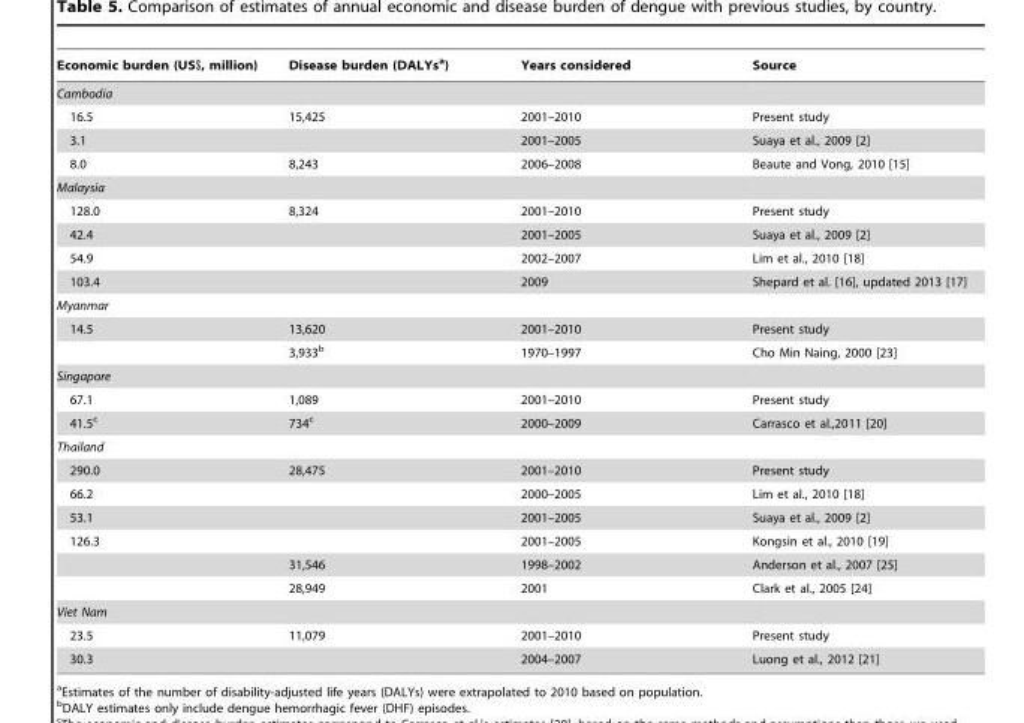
<table><thead><tr><td>Economic burden (US$, million)</td><td>Disease burden (DALYs<sup>a</sup>)</td><td>Years considered</td><td>Source</td></tr></thead><tbody><tr><td colspan="4">Cambodia</td></tr><tr><td>16.5</td><td>15,425</td><td>2001–2010</td><td>Present study</td></tr><tr><td>3.1</td><td></td><td>2001–2005</td><td>Suaya et al., 2009 [2]</td></tr><tr><td>8.0</td><td>8,243</td><td>2006–2008</td><td>Beaute and Vong, 2010 [15]</td></tr><tr><td colspan="4">Malaysia</td></tr><tr><td>128.0</td><td>8,324</td><td>2001–2010</td><td>Present study</td></tr><tr><td>42.4</td><td></td><td>2001–2005</td><td>Suaya et al., 2009 [2]</td></tr><tr><td>54.9</td><td></td><td>2002–2007</td><td>Lim et al., 2010 [18]</td></tr><tr><td>103.4</td><td></td><td>2009</td><td>Shepard et al. [16], updated 2013 [17]</td></tr><tr><td colspan="4">Myanmar</td></tr><tr><td rowspan="2">14.5</td><td>13,620</td><td>2001–2010</td><td>Present study</td></tr><tr><td>3,933<sup>b</sup></td><td>1970–1997</td><td>Cho Min Naing, 2000 [23]</td></tr><tr><td colspan="4">Singapore</td></tr><tr><td>67.1</td><td>1,089</td><td>2001–2010</td><td>Present study</td></tr><tr><td>41.5<sup>c</sup></td><td>734<sup>c</sup></td><td>2000–2009</td><td>Carrasco et al.,2011 [20]</td></tr><tr><td colspan="4">Thailand</td></tr><tr><td>290.0</td><td>28,475</td><td>2001–2010</td><td>Present study</td></tr><tr><td>66.2</td><td></td><td>2000–2005</td><td>Lim et al., 2010 [18]</td></tr><tr><td>53.1</td><td></td><td>2001–2005</td><td>Suaya et al., 2009 [2]</td></tr><tr><td rowspan="3">126.3</td><td></td><td>2001–2005</td><td>Kongsin et al., 2010 [19]</td></tr><tr><td>31,546</td><td>1998–2002</td><td>Anderson et al., 2007 [25]</td></tr><tr><td>28,949</td><td>2001</td><td>Clark et al., 2005 [24]</td></tr><tr><td colspan="4">Viet Nam</td></tr><tr><td>23.5</td><td>11,079</td><td>2001–2010</td><td>Present study</td></tr><tr><td>30.3</td><td></td><td>2004–2007</td><td>Luong et al., 2012 [21]</td></tr></tbody></table>